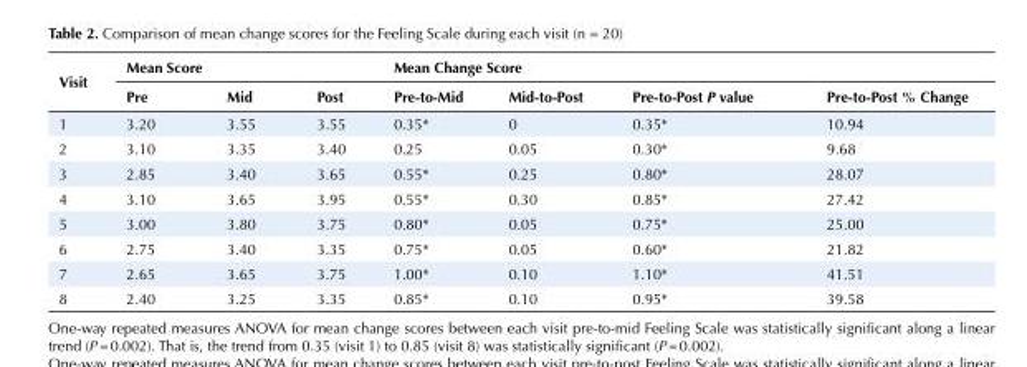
<table><tbody><tr><td rowspan="2">Visit</td><td colspan="3">Mean Score</td><td colspan="4">Mean Change Score</td></tr><tr><td>Pre</td><td>Mid</td><td>Post</td><td>Pre-to-Mid</td><td>Mid-to-Post</td><td>Pre-to-Post P value</td><td>Pre-to-Post % Change</td></tr><tr><td>1</td><td>3.20</td><td>3.55</td><td>3.55</td><td>0.35*</td><td>0</td><td>0.35*</td><td>10.94</td></tr><tr><td>2</td><td>3.10</td><td>3.35</td><td>3.40</td><td>0.25</td><td>0.05</td><td>0.30*</td><td>9.68</td></tr><tr><td>3</td><td>2.85</td><td>3.40</td><td>3.65</td><td>0.55*</td><td>0.25</td><td>0.80*</td><td>28.07</td></tr><tr><td>4</td><td>3.10</td><td>3.65</td><td>3.95</td><td>0.55*</td><td>0.30</td><td>0.85*</td><td>27.42</td></tr><tr><td>5</td><td>3.00</td><td>3.80</td><td>3.75</td><td>0.80*</td><td>0.05</td><td>0.75*</td><td>25.00</td></tr><tr><td>6</td><td>2.75</td><td>3.40</td><td>3.35</td><td>0.75*</td><td>0.05</td><td>0.60*</td><td>21.82</td></tr><tr><td>7</td><td>2.65</td><td>3.65</td><td>3.75</td><td>1.00*</td><td>0.10</td><td>1.10*</td><td>41.51</td></tr><tr><td>8</td><td>2.40</td><td>3.25</td><td>3.35</td><td>0.85*</td><td>0.10</td><td>0.95*</td><td>39.58</td></tr></tbody></table>